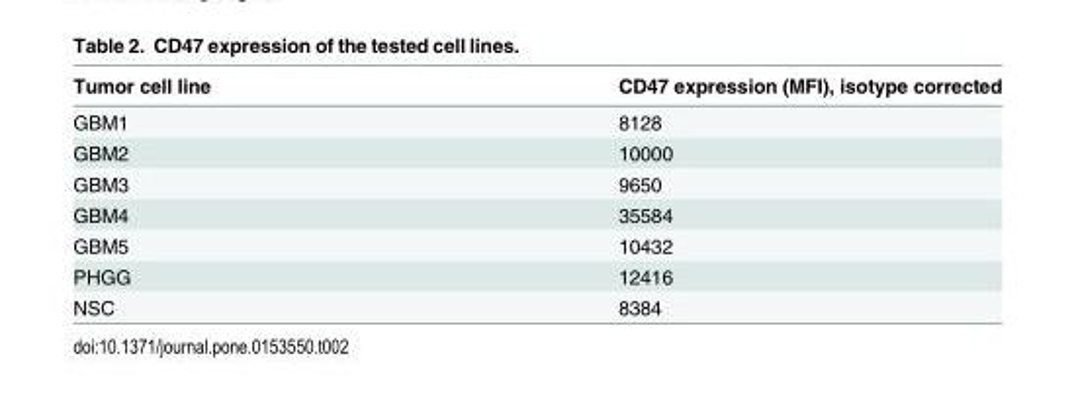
<table><thead><tr><td>Tumor cell line</td><td>CD47 expression (MFI), isotype corrected</td></tr></thead><tbody><tr><td>GBM1</td><td>8128</td></tr><tr><td>GBM2</td><td>10000</td></tr><tr><td>GBM3</td><td>9650</td></tr><tr><td>GBM4</td><td>35584</td></tr><tr><td>GBM5</td><td>10432</td></tr><tr><td>PHGG</td><td>12416</td></tr><tr><td>NSC</td><td>8384</td></tr></tbody></table>